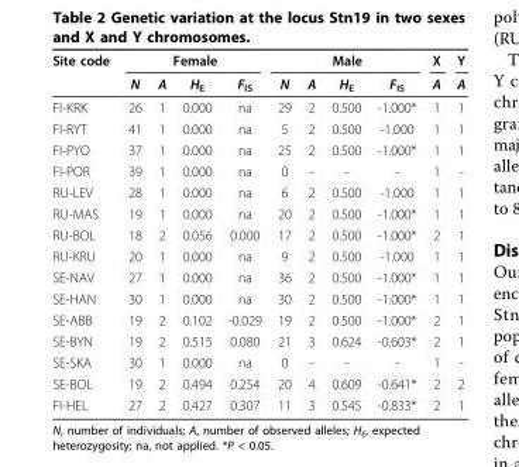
<table><thead><tr><td rowspan="2">Site code</td><td colspan="4">Female</td><td colspan="4">Male</td><td rowspan="2">X A</td><td rowspan="2">Y A</td></tr><tr><td>N</td><td>A</td><td>H<sub>E</sub></td><td>F<sub>IS</sub></td><td>N</td><td>A</td><td>H<sub>E</sub></td><td>F<sub>IS</sub></td></tr></thead><tbody><tr><td>FI-KRK</td><td>26</td><td>1</td><td>0.000</td><td>na</td><td>29</td><td>2</td><td>0.500</td><td>-1.000*</td><td>1</td><td>1</td></tr><tr><td>FI-RYT</td><td>41</td><td>1</td><td>0.000</td><td>na</td><td>5</td><td>2</td><td>0.500</td><td>-1.000</td><td>1</td><td>1</td></tr><tr><td>FI-PYO</td><td>37</td><td>1</td><td>0.000</td><td>na</td><td>25</td><td>2</td><td>0.500</td><td>-1.000*</td><td>1</td><td>1</td></tr><tr><td>FI-POR</td><td>39</td><td>1</td><td>0.000</td><td>na</td><td>0</td><td>-</td><td>-</td><td>-</td><td>1</td><td>-</td></tr><tr><td>RU-LEV</td><td>28</td><td>1</td><td>0.000</td><td>na</td><td>6</td><td>2</td><td>0.500</td><td>-1.000</td><td>1</td><td>1</td></tr><tr><td>RU-MAS</td><td>19</td><td>1</td><td>0.000</td><td>na</td><td>20</td><td>2</td><td>0.500</td><td>-1.000*</td><td>1</td><td>1</td></tr><tr><td>RU-BOL</td><td>18</td><td>2</td><td>0.056</td><td>0.000</td><td>17</td><td>2</td><td>0.500</td><td>-1.000*</td><td>2</td><td>1</td></tr><tr><td>RU-KRU</td><td>20</td><td>1</td><td>0.000</td><td>na</td><td>9</td><td>2</td><td>0.500</td><td>-1.000</td><td>1</td><td>1</td></tr><tr><td>SE-NAV</td><td>27</td><td>1</td><td>0.000</td><td>na</td><td>36</td><td>2</td><td>0.500</td><td>-1.000*</td><td>1</td><td>1</td></tr><tr><td>SE-HAN</td><td>30</td><td>1</td><td>0.000</td><td>na</td><td>30</td><td>2</td><td>0.500</td><td>-1.000*</td><td>1</td><td>1</td></tr><tr><td>SE-ABB</td><td>19</td><td>2</td><td>0.102</td><td>-0.029</td><td>19</td><td>2</td><td>0.500</td><td>-1.000*</td><td>2</td><td>1</td></tr><tr><td>SE-BYN</td><td>19</td><td>2</td><td>0.515</td><td>0.080</td><td>21</td><td>3</td><td>0.624</td><td>-0.603*</td><td>2</td><td>1</td></tr><tr><td>SE-SKA</td><td>30</td><td>1</td><td>0.000</td><td>na</td><td>0</td><td>-</td><td>-</td><td>-</td><td>1</td><td>-</td></tr><tr><td>SE-BOL</td><td>19</td><td>2</td><td>0.494</td><td>0.254</td><td>20</td><td>4</td><td>0.609</td><td>-0.641*</td><td>2</td><td>2</td></tr><tr><td>FI-HEL</td><td>27</td><td>2</td><td>0.427</td><td>0.307</td><td>11</td><td>3</td><td>0.545</td><td>-0.833*</td><td>2</td><td>1</td></tr></tbody></table>